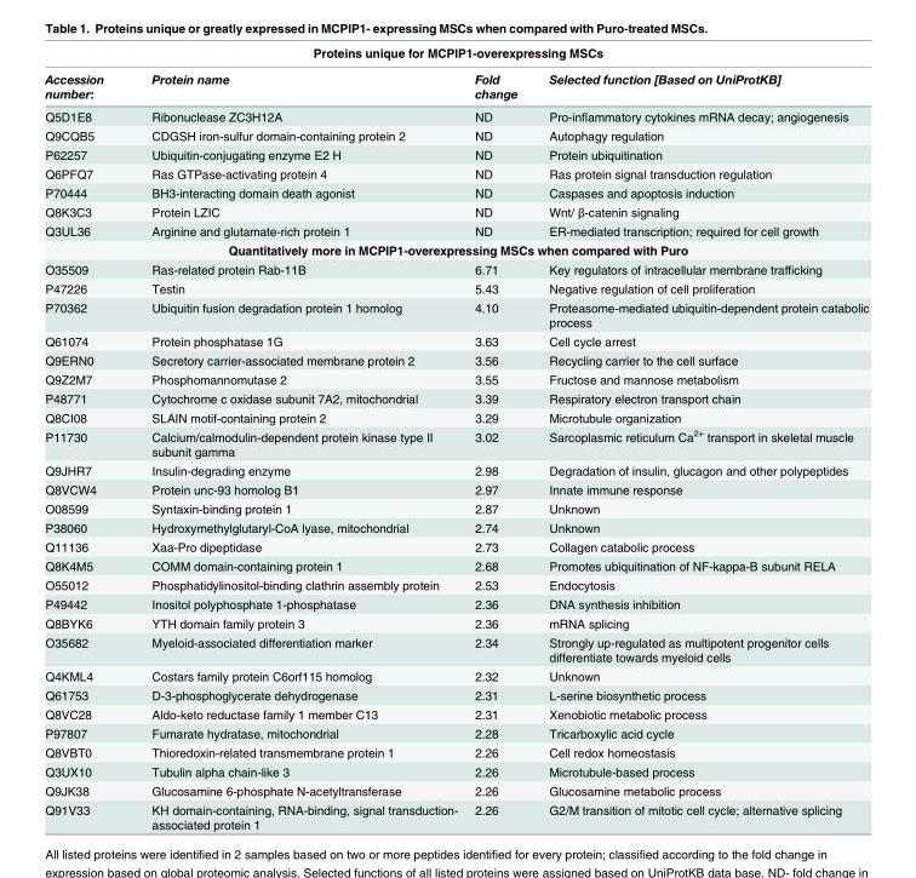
<table><thead><tr><td colspan="4">Proteins unique for MCPIP1-overexpressing MSCs</td></tr><tr><td>Accession number:</td><td>Protein name</td><td>Fold change</td><td>Selected function [Based on UniProtKB]</td></tr></thead><tbody><tr><td>Q5D1E8</td><td>Ribonuclease ZC3H12A</td><td>ND</td><td>Pro-inflammatory cytokines mRNA decay; angiogenesis</td></tr><tr><td>Q9CQB5</td><td>CDGSH iron-sulfur domain-containing protein 2</td><td>ND</td><td>Autophagy regulation</td></tr><tr><td>P62257</td><td>Ubiquitin-conjugating enzyme E2 H</td><td>ND</td><td>Protein ubiquitination</td></tr><tr><td>Q6PFQ7</td><td>Ras GTPase-activating protein 4</td><td>ND</td><td>Ras protein signal transduction regulation</td></tr><tr><td>P70444</td><td>BH3-interacting domain death agonist</td><td>ND</td><td>Caspases and apoptosis induction</td></tr><tr><td>Q8K3C3</td><td>Protein LZIC</td><td>ND</td><td>Wnt/ β-catenin signaling</td></tr><tr><td>Q3UL36</td><td>Arginine and glutamate-rich protein 1</td><td>ND</td><td>ER-mediated transcription; required for cell growth</td></tr><tr><td colspan="4">Quantitatively more in MCPIP1-overexpressing MSCs when compared with Puro</td></tr><tr><td>O35509</td><td>Ras-related protein Rab-11B</td><td>6.71</td><td>Key regulators of intracellular membrane trafficking</td></tr><tr><td>P47226</td><td>Testin</td><td>5.43</td><td>Negative regulation of cell proliferation</td></tr><tr><td>P70362</td><td>Ubiquitin fusion degradation protein 1 homolog</td><td>4.10</td><td>Proteasome-mediated ubiquitin-dependent protein catabolic process</td></tr><tr><td>Q61074</td><td>Protein phosphatase 1G</td><td>3.63</td><td>Cell cycle arrest</td></tr><tr><td>Q9ERN0</td><td>Secretory carrier-associated membrane protein 2</td><td>3.56</td><td>Recycling carrier to the cell surface</td></tr><tr><td>Q9Z2M7</td><td>Phosphomannomutase 2</td><td>3.55</td><td>Fructose and mannose metabolism</td></tr><tr><td>P48771</td><td>Cytochrome c oxidase subunit 7A2, mitochondrial</td><td>3.39</td><td>Respiratory electron transport chain</td></tr><tr><td>Q8CI08</td><td>SLAIN motif-containing protein 2</td><td>3.29</td><td>Microtubule organization</td></tr><tr><td>P11730</td><td>Calcium/calmodulin-dependent protein kinase type II subunit gamma</td><td>3.02</td><td>Sarcoplasmic reticulum Ca<sup>2+</sup> transport in skeletal muscle</td></tr><tr><td>Q9JHR7</td><td>Insulin-degrading enzyme</td><td>2.98</td><td>Degradation of insulin, glucagon and other polypeptides</td></tr><tr><td>Q8VCW4</td><td>Protein unc-93 homolog B1</td><td>2.97</td><td>Innate immune response</td></tr><tr><td>O08599</td><td>Syntaxin-binding protein 1</td><td>2.87</td><td>Unknown</td></tr><tr><td>P38060</td><td>Hydroxymethylglutaryl-CoA lyase, mitochondrial</td><td>2.74</td><td>Unknown</td></tr><tr><td>Q11136</td><td>Xaa-Pro dipeptidase</td><td>2.73</td><td>Collagen catabolic process</td></tr><tr><td>Q8K4M5</td><td>COMM domain-containing protein 1</td><td>2.68</td><td>Promotes ubiquitination of NF-kappa-B subunit RELA</td></tr><tr><td>O55012</td><td>Phosphatidylinositol-binding clathrin assembly protein</td><td>2.53</td><td>Endocytosis</td></tr><tr><td>P49442</td><td>Inositol polyphosphate 1-phosphatase</td><td>2.36</td><td>DNA synthesis inhibition</td></tr><tr><td>Q8BYK6</td><td>YTH domain family protein 3</td><td>2.36</td><td>mRNA splicing</td></tr><tr><td>O35682</td><td>Myeloid-associated differentiation marker</td><td>2.34</td><td>Strongly up-regulated as multipotent progenitor cells differentiate towards myeloid cells</td></tr><tr><td>Q4KML4</td><td>Costars family protein C6orf115 homolog</td><td>2.32</td><td>Unknown</td></tr><tr><td>Q61753</td><td>D-3-phosphoglycerate dehydrogenase</td><td>2.31</td><td>L-serine biosynthetic process</td></tr><tr><td>Q8VC28</td><td>Aldo-keto reductase family 1 member C13</td><td>2.31</td><td>Xenobiotic metabolic process</td></tr><tr><td>P97807</td><td>Fumarate hydratase, mitochondrial</td><td>2.28</td><td>Tricarboxylic acid cycle</td></tr><tr><td>Q8VBT0</td><td>Thioredoxin-related transmembrane protein 1</td><td>2.26</td><td>Cell redox homeostasis</td></tr><tr><td>Q3UX10</td><td>Tubulin alpha chain-like 3</td><td>2.26</td><td>Microtubule-based process</td></tr><tr><td>Q9JK38</td><td>Glucosamine 6-phosphate N-acetyltransferase</td><td>2.26</td><td>Glucosamine metabolic process</td></tr><tr><td>Q91V33</td><td>KH domain-containing, RNA-binding, signal transduction- associated protein 1</td><td>2.26</td><td>G2/M transition of mitotic cell cycle; alternative splicing</td></tr></tbody></table>